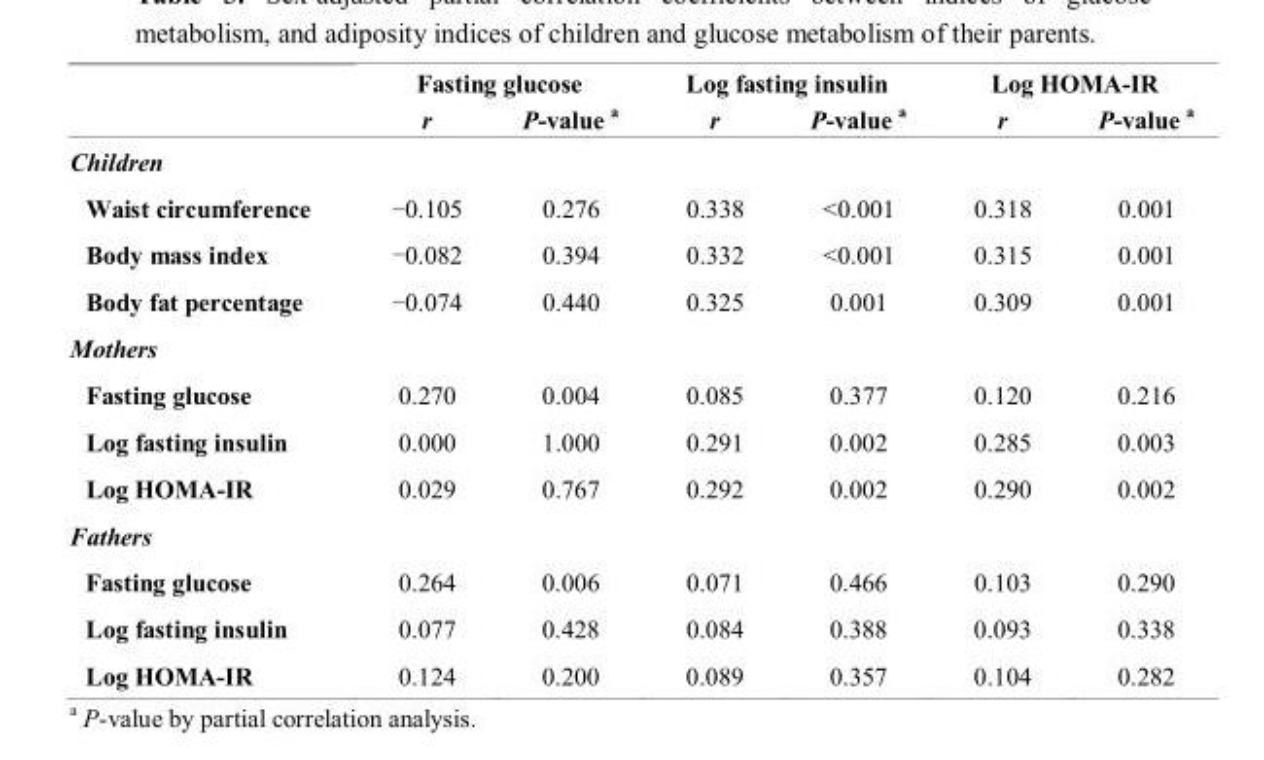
<table><thead><tr><td rowspan="2"></td><td colspan="2">Fasting glucose</td><td colspan="2">Log fasting insulin</td><td colspan="2">Log HOMA-IR</td></tr><tr><td>r</td><td>P-value <sup>a</sup></td><td>r</td><td>P-value <sup>a</sup></td><td>r</td><td>P-value <sup>a</sup></td></tr></thead><tbody><tr><td colspan="7">Children</td></tr><tr><td>Waist circumference</td><td>-0.105</td><td>0.276</td><td>0.338</td><td>&lt;0.001</td><td>0.318</td><td>0.001</td></tr><tr><td>Body mass index</td><td>-0.082</td><td>0.394</td><td>0.332</td><td>&lt;0.001</td><td>0.315</td><td>0.001</td></tr><tr><td>Body fat percentage</td><td>-0.074</td><td>0.440</td><td>0.325</td><td>0.001</td><td>0.309</td><td>0.001</td></tr><tr><td colspan="7">Mothers</td></tr><tr><td>Fasting glucose</td><td>0.270</td><td>0.004</td><td>0.085</td><td>0.377</td><td>0.120</td><td>0.216</td></tr><tr><td>Log fasting insulin</td><td>0.000</td><td>1.000</td><td>0.291</td><td>0.002</td><td>0.285</td><td>0.003</td></tr><tr><td>Log HOMA-IR</td><td>0.029</td><td>0.767</td><td>0.292</td><td>0.002</td><td>0.290</td><td>0.002</td></tr><tr><td colspan="7">Fathers</td></tr><tr><td>Fasting glucose</td><td>0.264</td><td>0.006</td><td>0.071</td><td>0.466</td><td>0.103</td><td>0.290</td></tr><tr><td>Log fasting insulin</td><td>0.077</td><td>0.428</td><td>0.084</td><td>0.388</td><td>0.093</td><td>0.338</td></tr><tr><td>Log HOMA-IR</td><td>0.124</td><td>0.200</td><td>0.089</td><td>0.357</td><td>0.104</td><td>0.282</td></tr></tbody></table>